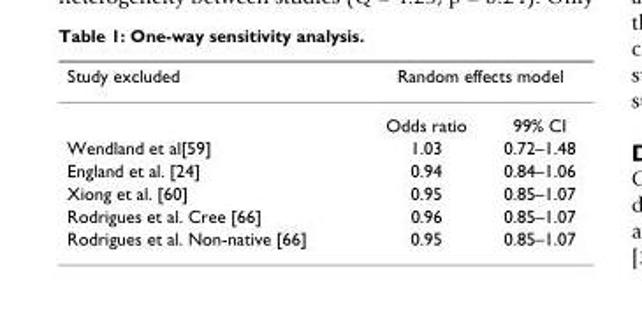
<table><thead><tr><td rowspan="2">Study excluded</td><td colspan="2">Random effects model</td></tr><tr><td>Odds ratio</td><td>99% CI</td></tr></thead><tbody><tr><td>Wendland et al[59]</td><td>1.03</td><td>0.72–1.48</td></tr><tr><td>England et al. [24]</td><td>0.94</td><td>0.84–1.06</td></tr><tr><td>Xiong et al. [60]</td><td>0.95</td><td>0.85–1.07</td></tr><tr><td>Rodrigues et al. Cree [66]</td><td>0.96</td><td>0.85–1.07</td></tr><tr><td>Rodrigues et al. Non-native [66]</td><td>0.95</td><td>0.85–1.07</td></tr></tbody></table>